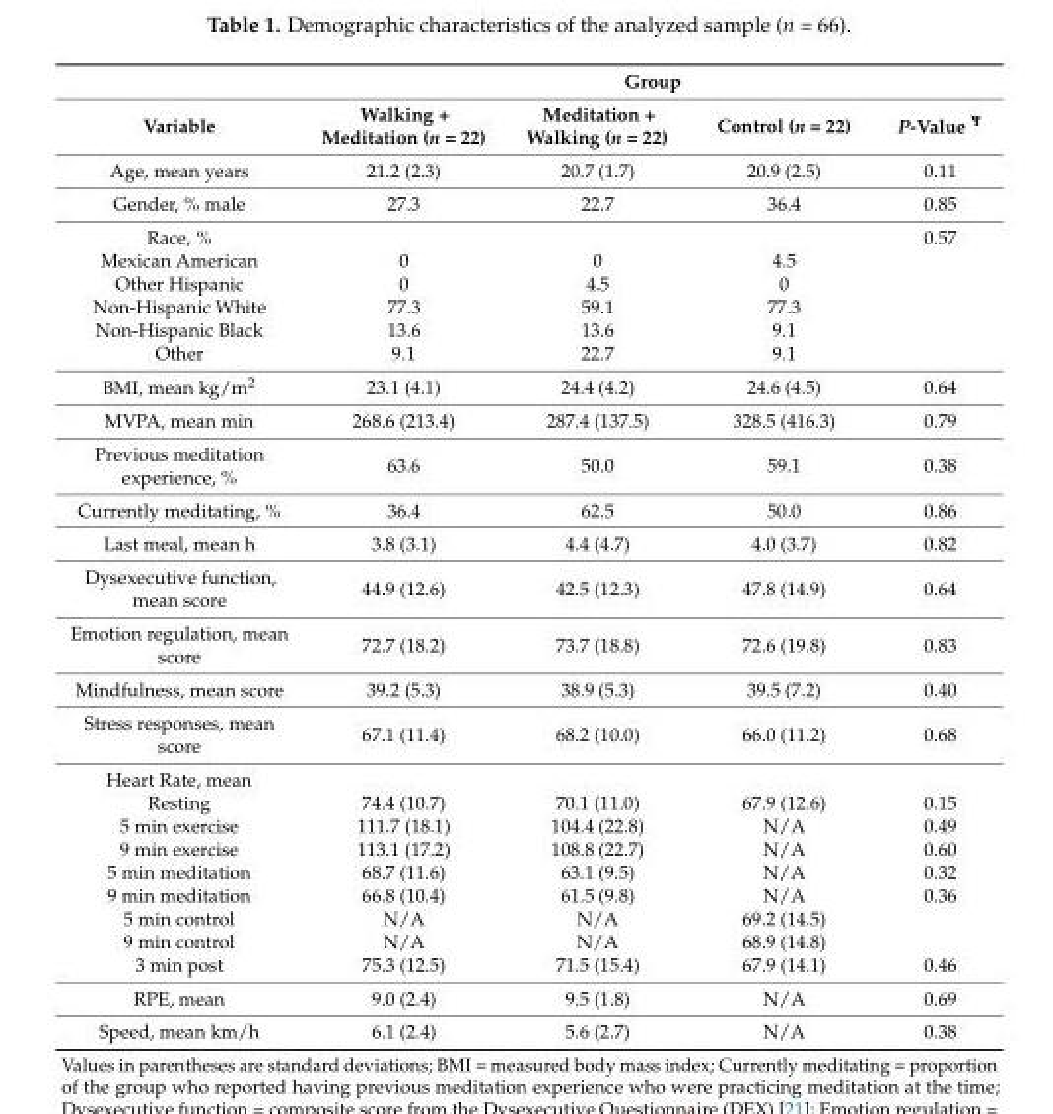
<table><thead><tr><td rowspan="2">Variable</td><td colspan="4">Group</td></tr><tr><td>Walking + Meditation (n = 22)</td><td>Meditation + Walking (n = 22)</td><td>Control (n = 22)</td><td>P-Value <sup>Ψ</sup></td></tr></thead><tbody><tr><td>Age, mean years</td><td>21.2 (2.3)</td><td>20.7 (1.7)</td><td>20.9 (2.5)</td><td>0.11</td></tr><tr><td>Gender, % male</td><td>27.3</td><td>22.7</td><td>36.4</td><td>0.85</td></tr><tr><td>Race, %</td><td></td><td></td><td></td><td>0.57</td></tr><tr><td>Mexican American</td><td>0</td><td>0</td><td>4.5</td><td></td></tr><tr><td>Other Hispanic</td><td>0</td><td>4.5</td><td>0</td><td></td></tr><tr><td>Non-Hispanic White</td><td>77.3</td><td>59.1</td><td>77.3</td><td></td></tr><tr><td>Non-Hispanic Black</td><td>13.6</td><td>13.6</td><td>9.1</td><td></td></tr><tr><td>Other</td><td>9.1</td><td>22.7</td><td>9.1</td><td></td></tr><tr><td>BMI, mean kg/m<sup>2</sup></td><td>23.1 (4.1)</td><td>24.4 (4.2)</td><td>24.6 (4.5)</td><td>0.64</td></tr><tr><td>MVPA, mean min</td><td>268.6 (213.4)</td><td>287.4 (137.5)</td><td>328.5 (416.3)</td><td>0.79</td></tr><tr><td>Previous meditation experience, %</td><td>63.6</td><td>50.0</td><td>59.1</td><td>0.38</td></tr><tr><td>Currently meditating, %</td><td>36.4</td><td>62.5</td><td>50.0</td><td>0.86</td></tr><tr><td>Last meal, mean h</td><td>3.8 (3.1)</td><td>4.4 (4.7)</td><td>4.0 (3.7)</td><td>0.82</td></tr><tr><td>Dysexecutive function, mean score</td><td>44.9 (12.6)</td><td>42.5 (12.3)</td><td>47.8 (14.9)</td><td>0.64</td></tr><tr><td>Emotion regulation, mean score</td><td>72.7 (18.2)</td><td>73.7 (18.8)</td><td>72.6 (19.8)</td><td>0.83</td></tr><tr><td>Mindfulness, mean score</td><td>39.2 (5.3)</td><td>38.9 (5.3)</td><td>39.5 (7.2)</td><td>0.40</td></tr><tr><td>Stress responses, mean score</td><td>67.1 (11.4)</td><td>68.2 (10.0)</td><td>66.0 (11.2)</td><td>0.68</td></tr><tr><td colspan="5">Heart Rate, mean</td></tr><tr><td>Resting</td><td>74.4 (10.7)</td><td>70.1 (11.0)</td><td>67.9 (12.6)</td><td>0.15</td></tr><tr><td>5 min exercise</td><td>111.7 (18.1)</td><td>104.4 (22.8)</td><td>N/A</td><td>0.49</td></tr><tr><td>9 min exercise</td><td>113.1 (17.2)</td><td>108.8 (22.7)</td><td>N/A</td><td>0.60</td></tr><tr><td>5 min meditation</td><td>68.7 (11.6)</td><td>63.1 (9.5)</td><td>N/A</td><td>0.32</td></tr><tr><td>9 min meditation</td><td>66.8 (10.4)</td><td>61.5 (9.8)</td><td>N/A</td><td>0.36</td></tr><tr><td>5 min control</td><td>N/A</td><td>N/A</td><td>69.2 (14.5)</td><td></td></tr><tr><td>9 min control</td><td>N/A</td><td>N/A</td><td>68.9 (14.8)</td><td></td></tr><tr><td>3 min post</td><td>75.3 (12.5)</td><td>71.5 (15.4)</td><td>67.9 (14.1)</td><td>0.46</td></tr><tr><td>RPE, mean</td><td>9.0 (2.4)</td><td>9.5 (1.8)</td><td>N/A</td><td>0.69</td></tr><tr><td>Speed, mean km/h</td><td>6.1 (2.4)</td><td>5.6 (2.7)</td><td>N/A</td><td>0.38</td></tr></tbody></table>